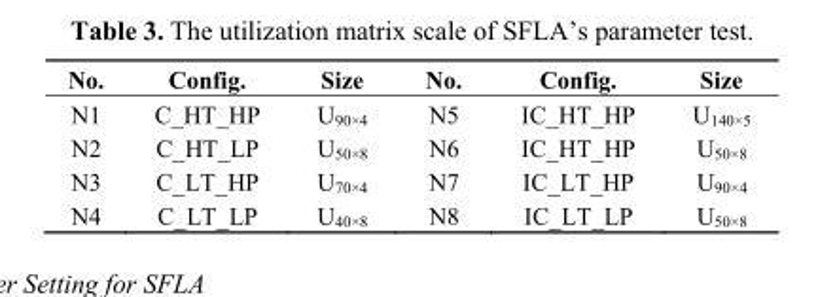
<table><thead><tr><td>No.</td><td>Config.</td><td>Size</td><td>No.</td><td>Config.</td><td>Size</td></tr></thead><tbody><tr><td>N1</td><td>C_HT_HP</td><td>U<sub>90×4</sub></td><td>N5</td><td>IC_HT_HP</td><td>U<sub>140×5</sub></td></tr><tr><td>N2</td><td>C_HT_LP</td><td>U<sub>50×8</sub></td><td>N6</td><td>IC_HT_HP</td><td>U<sub>50×8</sub></td></tr><tr><td>N3</td><td>C_LT_HP</td><td>U<sub>70×4</sub></td><td>N7</td><td>IC_LT_HP</td><td>U<sub>90×4</sub></td></tr><tr><td>N4</td><td>C_LT_LP</td><td>U<sub>40×8</sub></td><td>N8</td><td>IC_LT_LP</td><td>U<sub>50×8</sub></td></tr></tbody></table>